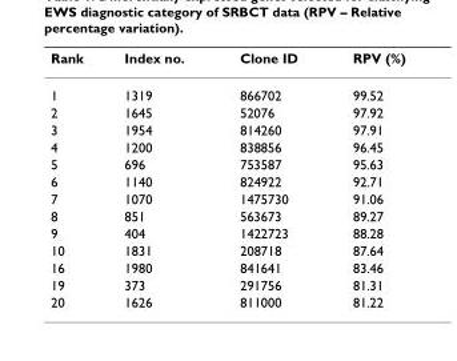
<table><thead><tr><td>Rank</td><td>Index no.</td><td>Clone ID</td><td>RPV (%)</td></tr></thead><tbody><tr><td>1</td><td>1319</td><td>866702</td><td>99.52</td></tr><tr><td>2</td><td>1645</td><td>52076</td><td>97.92</td></tr><tr><td>3</td><td>1954</td><td>814260</td><td>97.91</td></tr><tr><td>4</td><td>1200</td><td>838856</td><td>96.45</td></tr><tr><td>5</td><td>696</td><td>753587</td><td>95.63</td></tr><tr><td>6</td><td>1140</td><td>824922</td><td>92.71</td></tr><tr><td>7</td><td>1070</td><td>1475730</td><td>91.06</td></tr><tr><td>8</td><td>851</td><td>563673</td><td>89.27</td></tr><tr><td>9</td><td>404</td><td>1422723</td><td>88.28</td></tr><tr><td>10</td><td>1831</td><td>208718</td><td>87.64</td></tr><tr><td>16</td><td>1980</td><td>841641</td><td>83.46</td></tr><tr><td>19</td><td>373</td><td>291756</td><td>81.31</td></tr><tr><td>20</td><td>1626</td><td>811000</td><td>81.22</td></tr></tbody></table>